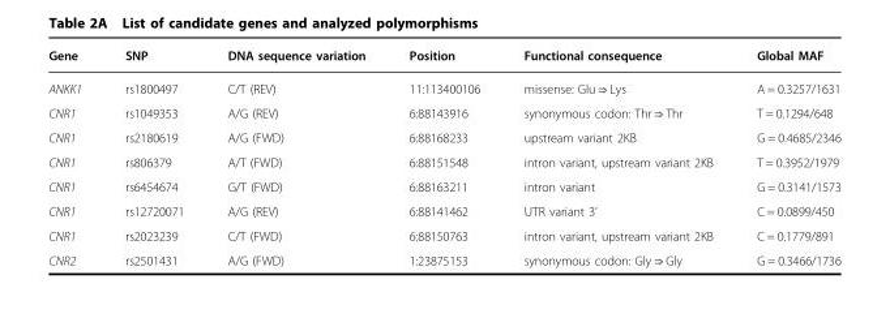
<table><thead><tr><td>Gene</td><td>SNP</td><td>DNA sequence variation</td><td>Position</td><td>Functional consequence</td><td>Global MAF</td></tr></thead><tbody><tr><td>ANKK1</td><td>rs1800497</td><td>C/T (REV)</td><td>11:113400106</td><td>missense: Glu ⇒ Lys</td><td>A = 0.3257/1631</td></tr><tr><td>CNR1</td><td>rs1049353</td><td>A/G (REV)</td><td>6:88143916</td><td>synonymous codon: Thr ⇒ Thr</td><td>T = 0.1294/648</td></tr><tr><td>CNR1</td><td>rs2180619</td><td>A/G (FWD)</td><td>6:88168233</td><td>upstream variant 2KB</td><td>G = 0.4685/2346</td></tr><tr><td>CNR1</td><td>rs806379</td><td>A/T (FWD)</td><td>6:88151548</td><td>intron variant, upstream variant 2KB</td><td>T = 0.3952/1979</td></tr><tr><td>CNR1</td><td>rs6454674</td><td>G/T (FWD)</td><td>6:88163211</td><td>intron variant</td><td>G = 0.3141/1573</td></tr><tr><td>CNR1</td><td>rs12720071</td><td>A/G (REV)</td><td>6:88141462</td><td>UTR variant 3’</td><td>C = 0.0899/450</td></tr><tr><td>CNR1</td><td>rs2023239</td><td>C/T (FWD)</td><td>6:88150763</td><td>intron variant, upstream variant 2KB</td><td>C = 0.1779/891</td></tr><tr><td>CNR2</td><td>rs2501431</td><td>A/G (FWD)</td><td>1:23875153</td><td>synonymous codon: Gly ⇒ Gly</td><td>G = 0.3466/1736</td></tr></tbody></table>